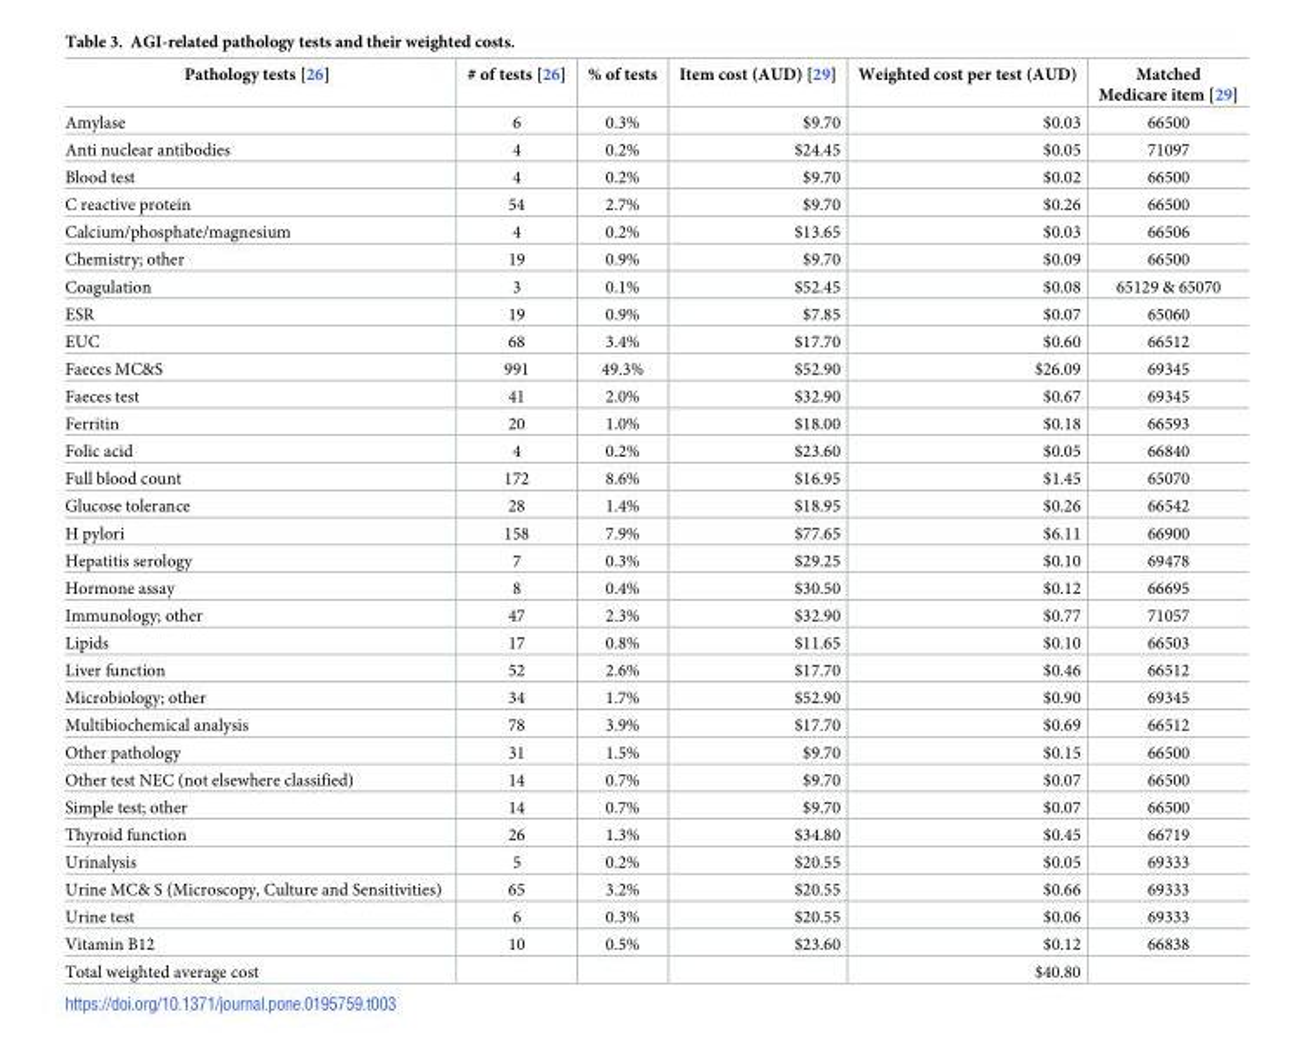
<table><thead><tr><td>Pathology tests [26]</td><td># of tests [26]</td><td>% of tests</td><td>Item cost (AUD) [29]</td><td>Weighted cost per test (AUD)</td><td>Matched Medicare item [29]</td></tr></thead><tbody><tr><td>Amylase</td><td>6</td><td>0.3%</td><td>$9.70</td><td>$0.03</td><td>66500</td></tr><tr><td>Anti nuclear antibodies</td><td>4</td><td>0.2%</td><td>$24.45</td><td>$0.05</td><td>71097</td></tr><tr><td>Blood test</td><td>4</td><td>0.2%</td><td>$9.70</td><td>$0.02</td><td>66500</td></tr><tr><td>C reactive protein</td><td>54</td><td>2.7%</td><td>$9.70</td><td>$0.26</td><td>66500</td></tr><tr><td>Calcium/phosphate/magnesium</td><td>4</td><td>0.2%</td><td>$13.65</td><td>$0.03</td><td>66506</td></tr><tr><td>Chemistry; other</td><td>19</td><td>0.9%</td><td>$9.70</td><td>$0.09</td><td>66500</td></tr><tr><td>Coagulation</td><td>3</td><td>0.1%</td><td>$52.45</td><td>$0.08</td><td>65129 &amp; 65070</td></tr><tr><td>ESR</td><td>19</td><td>0.9%</td><td>$7.85</td><td>$0.07</td><td>65060</td></tr><tr><td>EUC</td><td>68</td><td>3.4%</td><td>$17.70</td><td>$0.60</td><td>66512</td></tr><tr><td>Faeces MC&amp;S</td><td>991</td><td>49.3%</td><td>$52.90</td><td>$26.09</td><td>69345</td></tr><tr><td>Faeces test</td><td>41</td><td>2.0%</td><td>$32.90</td><td>$0.67</td><td>69345</td></tr><tr><td>Ferritin</td><td>20</td><td>1.0%</td><td>$18.00</td><td>$0.18</td><td>66593</td></tr><tr><td>Folic acid</td><td>4</td><td>0.2%</td><td>$23.60</td><td>$0.05</td><td>66840</td></tr><tr><td>Full blood count</td><td>172</td><td>8.6%</td><td>$16.95</td><td>$1.45</td><td>65070</td></tr><tr><td>Glucose tolerance</td><td>28</td><td>1.4%</td><td>$18.95</td><td>$0.26</td><td>66542</td></tr><tr><td>H pylori</td><td>158</td><td>7.9%</td><td>$77.65</td><td>$6.11</td><td>66900</td></tr><tr><td>Hepatitis serology</td><td>7</td><td>0.3%</td><td>$29.25</td><td>$0.10</td><td>69478</td></tr><tr><td>Hormone assay</td><td>8</td><td>0.4%</td><td>$30.50</td><td>$0.12</td><td>66695</td></tr><tr><td>Immunology; other</td><td>47</td><td>2.3%</td><td>$32.90</td><td>$0.77</td><td>71057</td></tr><tr><td>Lipids</td><td>17</td><td>0.8%</td><td>$11.65</td><td>$0.10</td><td>66503</td></tr><tr><td>Liver function</td><td>52</td><td>2.6%</td><td>$17.70</td><td>$0.46</td><td>66512</td></tr><tr><td>Microbiology; other</td><td>34</td><td>1.7%</td><td>$52.90</td><td>$0.90</td><td>69345</td></tr><tr><td>Multibiochemical analysis</td><td>78</td><td>3.9%</td><td>$17.70</td><td>$0.69</td><td>66512</td></tr><tr><td>Other pathology</td><td>31</td><td>1.5%</td><td>$9.70</td><td>$0.15</td><td>66500</td></tr><tr><td>Other test NEC (not elsewhere classified)</td><td>14</td><td>0.7%</td><td>$9.70</td><td>$0.07</td><td>66500</td></tr><tr><td>Simple test; other</td><td>14</td><td>0.7%</td><td>$9.70</td><td>$0.07</td><td>66500</td></tr><tr><td>Thyroid function</td><td>26</td><td>1.3%</td><td>$34.80</td><td>$0.45</td><td>66719</td></tr><tr><td>Urinalysis</td><td>5</td><td>0.2%</td><td>$20.55</td><td>$0.05</td><td>69333</td></tr><tr><td>Urine MC&amp; S (Microscopy, Culture and Sensitivities)</td><td>65</td><td>3.2%</td><td>$20.55</td><td>$0.66</td><td>69333</td></tr><tr><td>Urine test</td><td>6</td><td>0.3%</td><td>$20.55</td><td>$0.06</td><td>69333</td></tr><tr><td>Vitamin B12</td><td>10</td><td>0.5%</td><td>$23.60</td><td>$0.12</td><td>66838</td></tr><tr><td>Total weighted average cost</td><td></td><td></td><td></td><td>$40.80</td><td></td></tr></tbody></table>